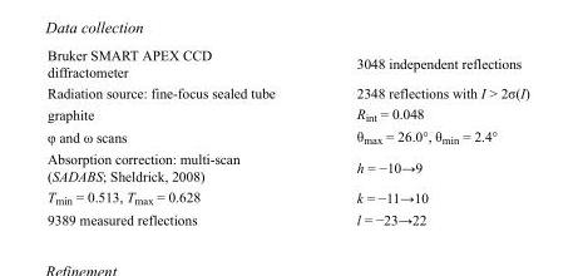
<table><tbody><tr><td>Bruker SMART APEX CCD diffractometer</td><td>3048 independent reflections</td></tr><tr><td>Radiation source: fine-focus sealed tube</td><td>2348 reflections with I &gt; 2σ(I)</td></tr><tr><td>graphite</td><td>R<sub>int</sub> = 0.048</td></tr><tr><td>φ and ω scans</td><td>θ<sub>max</sub> = 26.0°, θ<sub>min</sub> = 2.4°</td></tr><tr><td>Absorption correction: multi-scan (SADABS; Sheldrick, 2008)</td><td>h = −10→9</td></tr><tr><td>T<sub>min</sub> = 0.513, T<sub>max</sub> = 0.628</td><td>k = −11→10</td></tr><tr><td>9389 measured reflections</td><td>l = −23→22</td></tr></tbody></table>